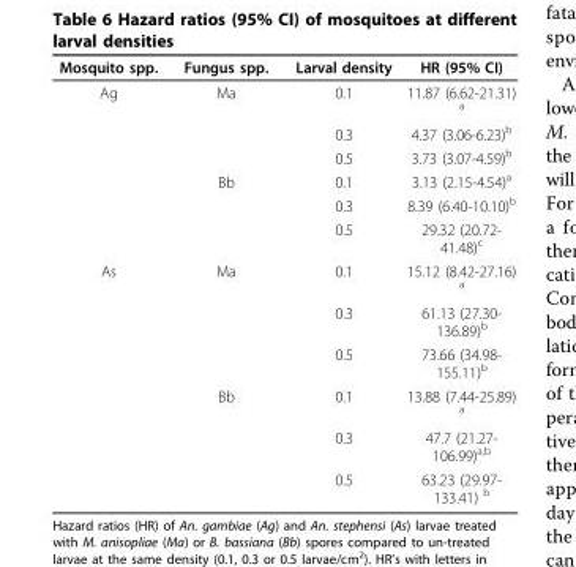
<table><thead><tr><td>Mosquito spp.</td><td>Fungus spp.</td><td>Larval density</td><td>HR (95% CI)</td></tr></thead><tbody><tr><td rowspan="6">Ag</td><td>Ma</td><td>0.1</td><td>11.87 (6.62-21.31) <sup>a</sup></td></tr><tr><td></td><td>0.3</td><td>4.37 (3.06-6.23)<sup>b</sup></td></tr><tr><td></td><td>0.5</td><td>3.73 (3.07-4.59)<sup>b</sup></td></tr><tr><td>Bb</td><td>0.1</td><td>3.13 (2.15-4.54)<sup>a</sup></td></tr><tr><td></td><td>0.3</td><td>8.39 (6.40-10.10)<sup>b</sup></td></tr><tr><td></td><td>0.5</td><td>29.32 (20.72- 41.48)<sup>c</sup></td></tr><tr><td rowspan="6">As</td><td>Ma</td><td>0.1</td><td>15.12 (8.42-27.16) <sup>a</sup></td></tr><tr><td></td><td>0.3</td><td>61.13 (27.30- 136.89)<sup>b</sup></td></tr><tr><td></td><td>0.5</td><td>73.66 (34.98- 155.11)<sup>b</sup></td></tr><tr><td>Bb</td><td>0.1</td><td>13.88 (7.44-25.89) <sup>a</sup></td></tr><tr><td></td><td>0.3</td><td>47.7 (21.27- 106.99)<sup>a,b</sup></td></tr><tr><td></td><td>0.5</td><td>63.23 (29.97- 133.41) <sup>b</sup></td></tr></tbody></table>